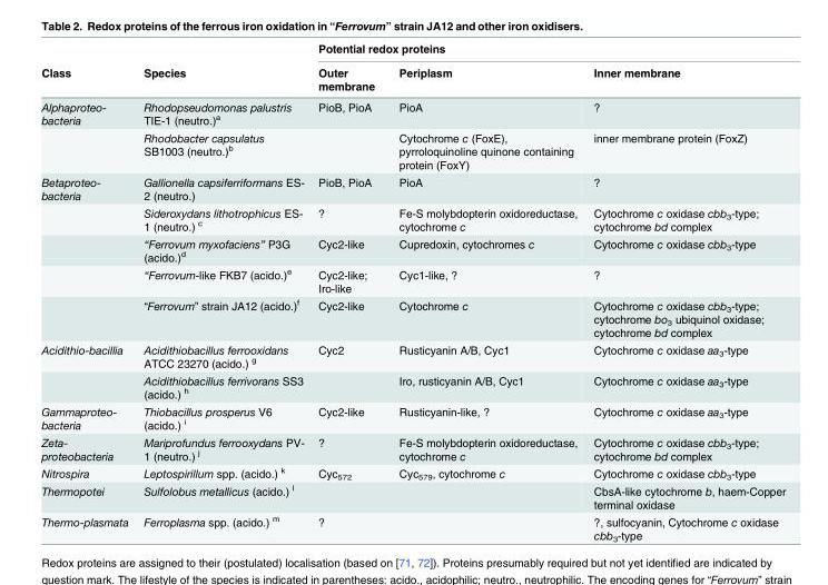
<table><thead><tr><td rowspan="2">Class</td><td rowspan="2">Species</td><td colspan="3">Potential redox proteins</td></tr><tr><td>Outer membrane</td><td>Periplasm</td><td>Inner membrane</td></tr></thead><tbody><tr><td rowspan="2">Alphaproteo- bacteria</td><td>Rhodopseudomonas palustris TIE-1 (neutro.)<sup>a</sup></td><td>PioB, PioA</td><td>PioA</td><td>?</td></tr><tr><td>Rhodobacter capsulatus SB1003 (neutro.)<sup>b</sup></td><td></td><td>Cytochrome c (FoxE), pyrroloquinoline quinone containing protein (FoxY)</td><td>inner membrane protein (FoxZ)</td></tr><tr><td rowspan="5">Betaproteo- bacteria</td><td>Gallionella capsiferriformans ES- 2 (neutro.)</td><td>PioB, PioA</td><td>PioA</td><td>?</td></tr><tr><td>Sideroxydans lithotrophicus ES- 1 (neutro.) <sup>c</sup></td><td>?</td><td>Fe-S molybdopterin oxidoreductase, cytochrome c</td><td>Cytochrome c oxidase cbb<sub>3</sub>-type; cytochrome bd complex</td></tr><tr><td>“Ferrovum myxofaciens” P3G (acido.)<sup>d</sup></td><td>Cyc2-like</td><td>Cupredoxin, cytochromes c</td><td>Cytochrome c oxidase cbb<sub>3</sub>-type</td></tr><tr><td>“Ferrovum-like FKB7 (acido.)<sup>e</sup></td><td>Cyc2-like; Iro-like</td><td>Cyc1-like, ?</td><td>?</td></tr><tr><td>“Ferrovum” strain JA12 (acido.)<sup>f</sup></td><td>Cyc2-like</td><td>Cytochrome c</td><td>Cytochrome c oxidase cbb<sub>3</sub>-type; cytochrome bo<sub>3</sub> ubiquinol oxidase; cytochrome bd complex</td></tr><tr><td rowspan="2">Acidithio-bacillia</td><td>Acidithiobacillus ferrooxidans ATCC 23270 (acido.) <sup>g</sup></td><td>Cyc2</td><td>Rusticyanin A/B, Cyc1</td><td>Cytochrome c oxidase aa<sub>3</sub>-type</td></tr><tr><td>Acidithiobacillus ferrivorans SS3 (acido.) <sup>h</sup></td><td></td><td>Iro, rusticyanin A/B, Cyc1</td><td>Cytochrome c oxidase aa<sub>3</sub>-type</td></tr><tr><td>Gammaproteo- bacteria</td><td>Thiobacillus prosperus V6 (acido.) <sup>i</sup></td><td>Cyc2-like</td><td>Rusticyanin-like, ?</td><td>Cytochrome c oxidase aa<sub>3</sub>-type</td></tr><tr><td>Zeta- proteobacteria</td><td>Mariprofundus ferrooxydans PV- 1 (neutro.) <sup>j</sup></td><td>?</td><td>Fe-S molybdopterin oxidoreductase, cytochrome c</td><td>Cytochrome c oxidase cbb<sub>3</sub>-type; cytochrome bd complex</td></tr><tr><td>Nitrospira</td><td>Leptospirillum spp. (acido.) <sup>k</sup></td><td>Cyc<sub>572</sub></td><td>Cyc<sub>579</sub>, cytochrome c</td><td>Cytochrome c oxidase cbb<sub>3</sub>-type</td></tr><tr><td>Thermopotei</td><td>Sulfolobus metallicus (acido.) <sup>l</sup></td><td></td><td></td><td>CbsA-like cytochrome b, haem-Copper terminal oxidase</td></tr><tr><td>Thermo-plasmata</td><td>Ferroplasma spp. (acido.) <sup>m</sup></td><td>?</td><td></td><td>?, sulfocyanin, Cytochrome c oxidase cbb<sub>3</sub>-type</td></tr></tbody></table>